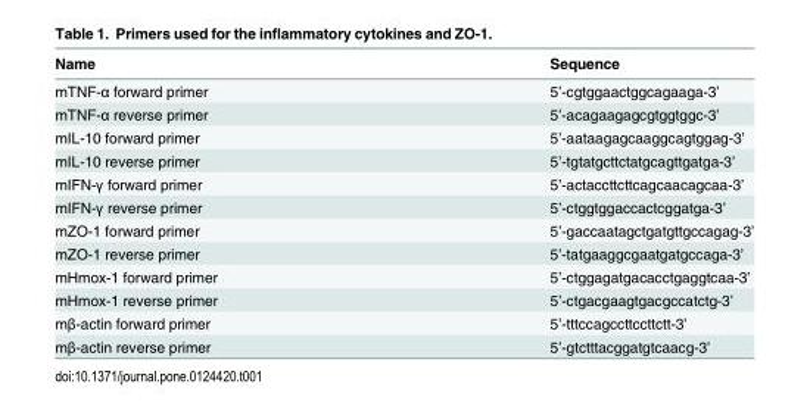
<table><thead><tr><td>Name</td><td>Sequence</td></tr></thead><tbody><tr><td>mTNF-α forward primer</td><td>5’-cgtggaactggcagaaga-3’</td></tr><tr><td>mTNF-α reverse primer</td><td>5’-acagaagagcgtggtggc-3’</td></tr><tr><td>mIL-10 forward primer</td><td>5’-aataagagcaaggcagtggag-3’</td></tr><tr><td>mIL-10 reverse primer</td><td>5’-tgtatgcttctatgcagttgatga-3’</td></tr><tr><td>mIFN-γ forward primer</td><td>5’-actaccttcttcagcaacagcaa-3’</td></tr><tr><td>mIFN-γ reverse primer</td><td>5’-ctggtggaccactcggatga-3’</td></tr><tr><td>mZO-1 forward primer</td><td>5’-gaccaatagctgatgttgccagag-3’</td></tr><tr><td>mZO-1 reverse primer</td><td>5’-tatgaaggcgaatgatgccaga-3’</td></tr><tr><td>mHmox-1 forward primer</td><td>5’-ctggagatgacacctgaggtcaa-3’</td></tr><tr><td>mHmox-1 reverse primer</td><td>5’-ctgacgaagtgacgccatctg-3’</td></tr><tr><td>mβ-actin forward primer</td><td>5’-tttccagccttccttctt-3’</td></tr><tr><td>mβ-actin reverse primer</td><td>5’-gtctttacggatgtcaacg-3’</td></tr></tbody></table>